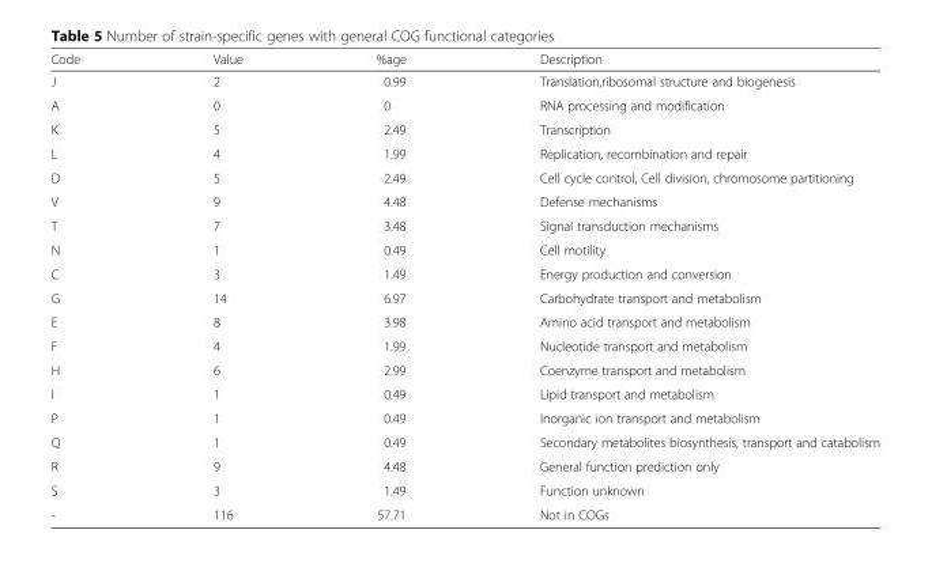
<table><thead><tr><td>Code</td><td>Value</td><td>%age</td><td>Description</td></tr></thead><tbody><tr><td>J</td><td>2</td><td>0.99</td><td>Translation,ribosomal structure and biogenesis</td></tr><tr><td>A</td><td>0</td><td>0</td><td>RNA processing and modification</td></tr><tr><td>K</td><td>5</td><td>2.49</td><td>Transcription</td></tr><tr><td>L</td><td>4</td><td>1.99</td><td>Replication, recombination and repair</td></tr><tr><td>D</td><td>5</td><td>2.49</td><td>Cell cycle control, Cell division, chromosome partitioning</td></tr><tr><td>V</td><td>9</td><td>4.48</td><td>Defense mechanisms</td></tr><tr><td>T</td><td>7</td><td>3.48</td><td>Signal transduction mechanisms</td></tr><tr><td>N</td><td>1</td><td>0.49</td><td>Cell motility</td></tr><tr><td>C</td><td>3</td><td>1.49</td><td>Energy production and conversion</td></tr><tr><td>G</td><td>14</td><td>6.97</td><td>Carbohydrate transport and metabolism</td></tr><tr><td>E</td><td>8</td><td>3.98</td><td>Amino acid transport and metabolism</td></tr><tr><td>F</td><td>4</td><td>1.99</td><td>Nucleotide transport and metabolism</td></tr><tr><td>H</td><td>6</td><td>2.99</td><td>Coenzyme transport and metabolism</td></tr><tr><td>I</td><td>1</td><td>0.49</td><td>Lipid transport and metabolism</td></tr><tr><td>P</td><td>1</td><td>0.49</td><td>Inorganic ion transport and metabolism</td></tr><tr><td>Q</td><td>1</td><td>0.49</td><td>Secondary metabolites biosynthesis, transport and catabolism</td></tr><tr><td>R</td><td>9</td><td>4.48</td><td>General function prediction only</td></tr><tr><td>S</td><td>3</td><td>1.49</td><td>Function unknown</td></tr><tr><td>-</td><td>116</td><td>57.71</td><td>Not in COGs</td></tr></tbody></table>